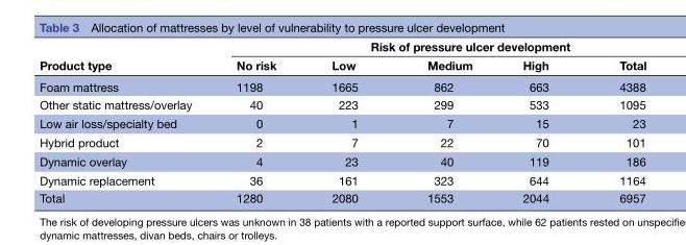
<table><thead><tr><td rowspan="2">Product type</td><td colspan="5">Risk of pressure ulcer development</td></tr><tr><td>No risk</td><td>Low</td><td>Medium</td><td>High</td><td>Total</td></tr></thead><tbody><tr><td>Foam mattress</td><td>1198</td><td>1665</td><td>862</td><td>663</td><td>4388</td></tr><tr><td>Other static mattress/overlay</td><td>40</td><td>223</td><td>299</td><td>533</td><td>1095</td></tr><tr><td>Low air loss/specialty bed</td><td>0</td><td>1</td><td>7</td><td>15</td><td>23</td></tr><tr><td>Hybrid product</td><td>2</td><td>7</td><td>22</td><td>70</td><td>101</td></tr><tr><td>Dynamic overlay</td><td>4</td><td>23</td><td>40</td><td>119</td><td>186</td></tr><tr><td>Dynamic replacement</td><td>36</td><td>161</td><td>323</td><td>644</td><td>1164</td></tr><tr><td>Total</td><td>1280</td><td>2080</td><td>1553</td><td>2044</td><td>6957</td></tr></tbody></table>